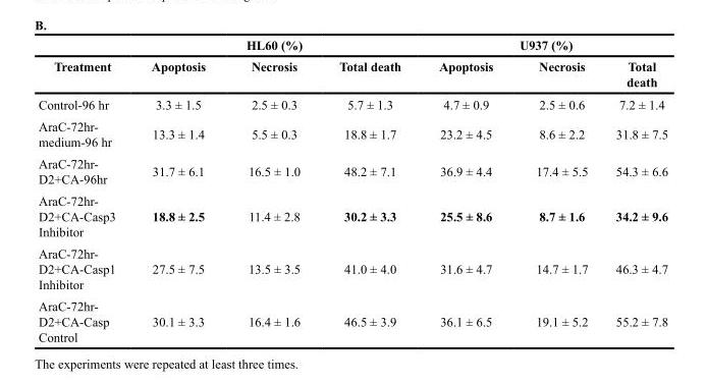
<table><thead><tr><td rowspan="2">Treatment</td><td colspan="3">HL60 (%)</td><td colspan="3">U937 (%)</td></tr><tr><td>Apoptosis</td><td>Necrosis</td><td>Total death</td><td>Apoptosis</td><td>Necrosis</td><td>Total death</td></tr></thead><tbody><tr><td>Control-96 hr</td><td>3.3 ± 1.5</td><td>2.5 ± 0.3</td><td>5.7 ± 1.3</td><td>4.7 ± 0.9</td><td>2.5 ± 0.6</td><td>7.2 ± 1.4</td></tr><tr><td>AraC-72hr- medium-96 hr</td><td>13.3 ± 1.4</td><td>5.5 ± 0.3</td><td>18.8 ± 1.7</td><td>23.2 ± 4.5</td><td>8.6 ± 2.2</td><td>31.8 ± 7.5</td></tr><tr><td>AraC-72hr- D2+CA-96hr</td><td>31.7 ± 6.1</td><td>16.5 ± 1.0</td><td>48.2 ± 7.1</td><td>36.9 ± 4.4</td><td>17.4 ± 5.5</td><td>54.3 ± 6.6</td></tr><tr><td>AraC-72hr- D2+CA-Casp3 Inhibitor</td><td>18.8 ± 2.5</td><td>11.4 ± 2.8</td><td>30.2 ± 3.3</td><td>25.5 ± 8.6</td><td>8.7 ± 1.6</td><td>34.2 ± 9.6</td></tr><tr><td>AraC-72hr- D2+CA-Casp1 Inhibitor</td><td>27.5 ± 7.5</td><td>13.5 ± 3.5</td><td>41.0 ± 4.0</td><td>31.6 ± 4.7</td><td>14.7 ± 1.7</td><td>46.3 ± 4.7</td></tr><tr><td>AraC-72hr- D2+CA-Casp Control</td><td>30.1 ± 3.3</td><td>16.4 ± 1.6</td><td>46.5 ± 3.9</td><td>36.1 ± 6.5</td><td>19.1 ± 5.2</td><td>55.2 ± 7.8</td></tr></tbody></table>